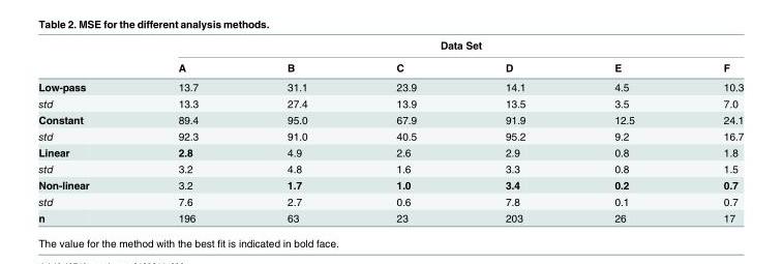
<table><thead><tr><td rowspan="2"></td><td colspan="6">Data Set</td></tr><tr><td>A</td><td>B</td><td>C</td><td>D</td><td>E</td><td>F</td></tr></thead><tbody><tr><td>Low-pass</td><td>13.7</td><td>31.1</td><td>23.9</td><td>14.1</td><td>4.5</td><td>10.3</td></tr><tr><td>std</td><td>13.3</td><td>27.4</td><td>13.9</td><td>13.5</td><td>3.5</td><td>7.0</td></tr><tr><td>Constant</td><td>89.4</td><td>95.0</td><td>67.9</td><td>91.9</td><td>12.5</td><td>24.1</td></tr><tr><td>std</td><td>92.3</td><td>91.0</td><td>40.5</td><td>95.2</td><td>9.2</td><td>16.7</td></tr><tr><td>Linear</td><td>2.8</td><td>4.9</td><td>2.6</td><td>2.9</td><td>0.8</td><td>1.8</td></tr><tr><td>std</td><td>3.2</td><td>4.8</td><td>1.6</td><td>3.3</td><td>0.8</td><td>1.5</td></tr><tr><td>Non-linear</td><td>3.2</td><td>1.7</td><td>1.0</td><td>3.4</td><td>0.2</td><td>0.7</td></tr><tr><td>std</td><td>7.6</td><td>2.7</td><td>0.6</td><td>7.8</td><td>0.1</td><td>0.7</td></tr><tr><td>n</td><td>196</td><td>63</td><td>23</td><td>203</td><td>26</td><td>17</td></tr></tbody></table>